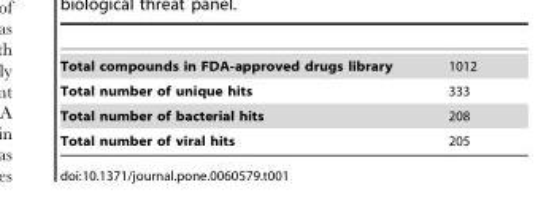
<table><tbody><tr><td>Total compounds in FDA-approved drugs library</td><td>1012</td></tr><tr><td>Total number of unique hits</td><td>333</td></tr><tr><td>Total number of bacterial hits</td><td>208</td></tr><tr><td>Total number of viral hits</td><td>205</td></tr></tbody></table>